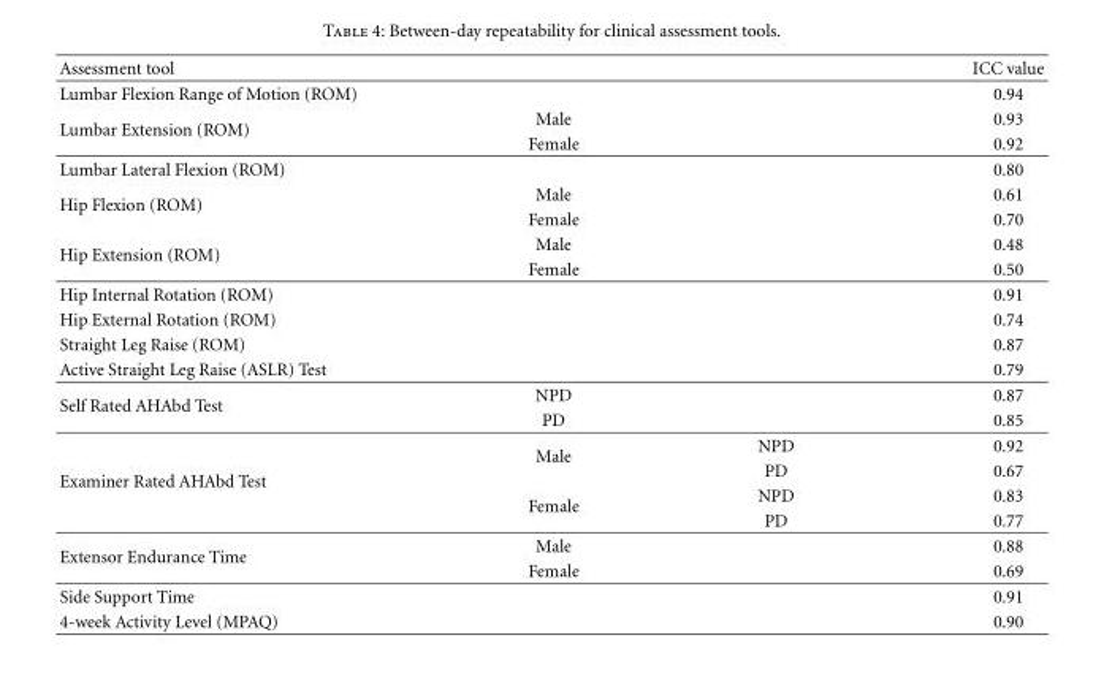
<table><thead><tr><td>Assessment tool</td><td></td><td></td><td>ICC value</td></tr></thead><tbody><tr><td>Lumbar Flexion Range of Motion (ROM)</td><td></td><td></td><td>0.94</td></tr><tr><td rowspan="2">Lumbar Extension (ROM)</td><td>Male</td><td></td><td>0.93</td></tr><tr><td>Female</td><td></td><td>0.92</td></tr><tr><td>Lumbar Lateral Flexion (ROM)</td><td></td><td></td><td>0.80</td></tr><tr><td rowspan="2">Hip Flexion (ROM)</td><td>Male</td><td></td><td>0.61</td></tr><tr><td>Female</td><td></td><td>0.70</td></tr><tr><td rowspan="2">Hip Extension (ROM)</td><td>Male</td><td></td><td>0.48</td></tr><tr><td>Female</td><td></td><td>0.50</td></tr><tr><td>Hip Internal Rotation (ROM)</td><td></td><td></td><td>0.91</td></tr><tr><td>Hip External Rotation (ROM)</td><td></td><td></td><td>0.74</td></tr><tr><td>Straight Leg Raise (ROM)</td><td></td><td></td><td>0.87</td></tr><tr><td>Active Straight Leg Raise (ASLR) Test</td><td></td><td></td><td>0.79</td></tr><tr><td rowspan="2">Self Rated AHAbd Test</td><td>NPD</td><td></td><td>0.87</td></tr><tr><td>PD</td><td></td><td>0.85</td></tr><tr><td rowspan="4">Examiner Rated AHAbd Test</td><td rowspan="2">Male</td><td>NPD</td><td>0.92</td></tr><tr><td>PD</td><td>0.67</td></tr><tr><td rowspan="2">Female</td><td>NPD</td><td>0.83</td></tr><tr><td>PD</td><td>0.77</td></tr><tr><td rowspan="2">Extensor Endurance Time</td><td>Male</td><td></td><td>0.88</td></tr><tr><td>Female</td><td></td><td>0.69</td></tr><tr><td>Side Support Time</td><td></td><td></td><td>0.91</td></tr><tr><td>4-week Activity Level (MPAQ)</td><td></td><td></td><td>0.90</td></tr></tbody></table>